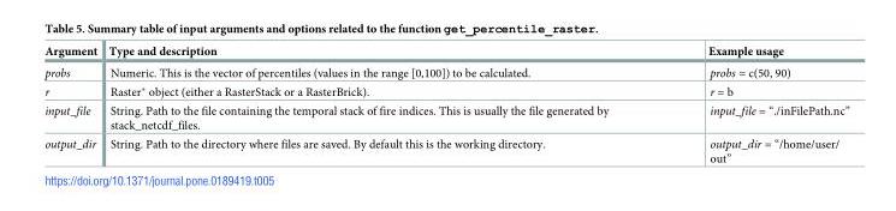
<table><thead><tr><td>Argument</td><td>Type and description</td><td>Example usage</td></tr></thead><tbody><tr><td>probs</td><td>Numeric. This is the vector of percentiles (values in the range [0,100]) to be calculated.</td><td>probs = c(50, 90)</td></tr><tr><td>r</td><td>Raster* object (either a RasterStack or a RasterBrick).</td><td>r = b</td></tr><tr><td>input_file</td><td>String. Path to the file containing the temporal stack of fire indices. This is usually the file generated by stack_netcdf_files.</td><td>input_file = “./inFilePath.nc”</td></tr><tr><td>output_dir</td><td>String. Path to the directory where files are saved. By default this is the working directory.</td><td>output_dir = “/home/user/ out”</td></tr></tbody></table>